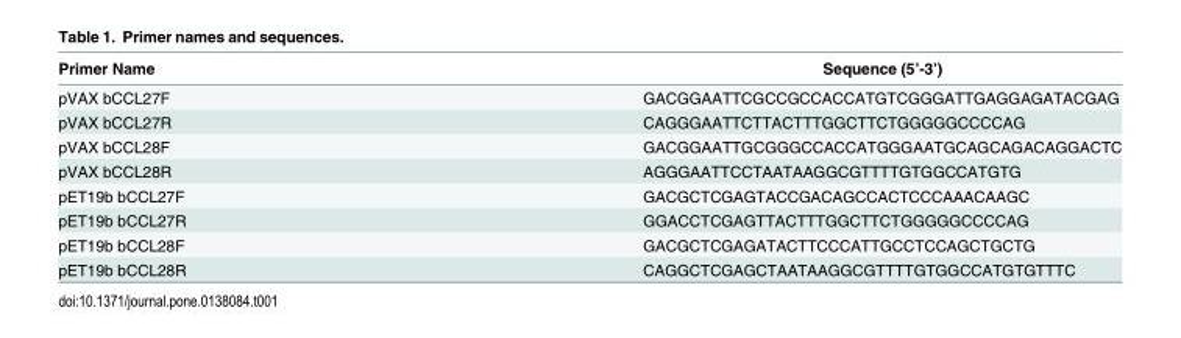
<table><thead><tr><td>Primer Name</td><td>Sequence (5’-3’)</td></tr></thead><tbody><tr><td>pVAX bCCL27F</td><td>GACGGAATTCGCCGCCACCATGTCGGGATTGAGGAGATACGAG</td></tr><tr><td>pVAX bCCL27R</td><td>CAGGGAATTCTTACTTTGGCTTCTGGGGGCCCCAG</td></tr><tr><td>pVAX bCCL28F</td><td>GACGGAATTGCGGGCCACCATGGGAATGCAGCAGACAGGACTC</td></tr><tr><td>pVAX bCCL28R</td><td>AGGGAATTCCTAATAAGGCGTTTTGTGGCCATGTG</td></tr><tr><td>pET19b bCCL27F</td><td>GACGCTCGAGTACCGACAGCCACTCCCAAACAAGC</td></tr><tr><td>pET19b bCCL27R</td><td>GGACCTCGAGTTACTTTGGCTTCTGGGGGCCCCAG</td></tr><tr><td>pET19b bCCL28F</td><td>GACGCTCGAGATACTTCCCATTGCCTCCAGCTGCTG</td></tr><tr><td>pET19b bCCL28R</td><td>CAGGCTCGAGCTAATAAGGCGTTTTGTGGCCATGTGTTTC</td></tr></tbody></table>